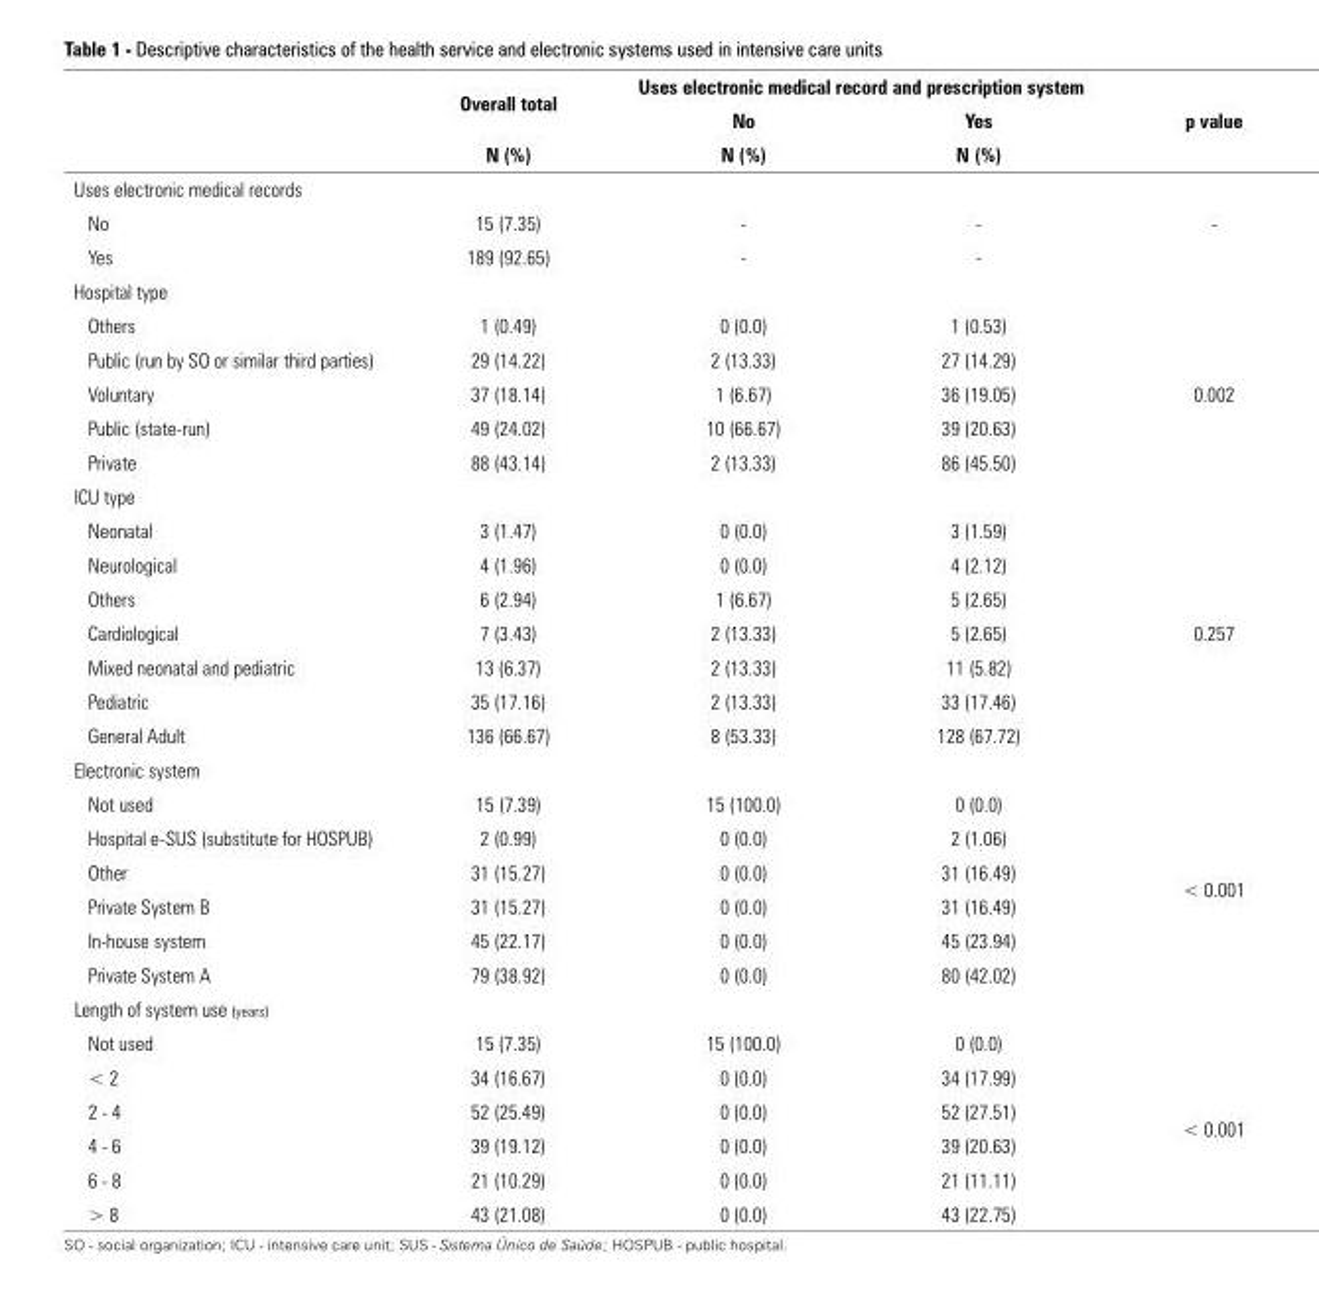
<table><thead><tr><td rowspan="3"></td><td rowspan="3">Overall total N (%)</td><td colspan="2">Uses electronic medical record and prescription system</td><td rowspan="3">p value</td></tr><tr><td rowspan="2">No N (%)</td><td rowspan="2">Yes N (%)</td></tr><tr></tr></thead><tbody><tr><td colspan="4">Uses electronic medical records</td><td rowspan="3">-</td></tr><tr><td>No</td><td>15 (7.35)</td><td>-</td><td>-</td></tr><tr><td>Yes</td><td>189 (92.65)</td><td>-</td><td>-</td></tr><tr><td colspan="5">Hospital type</td></tr><tr><td>Others</td><td>1 (0.49)</td><td>0 (0.0)</td><td>1 (0.53)</td><td rowspan="5">0.002</td></tr><tr><td>Public (run by SO or similar third parties)</td><td>29 (14.22)</td><td>2 (13.33)</td><td>27 (14.29)</td></tr><tr><td>Voluntary</td><td>37 (18.14)</td><td>1 (6.67)</td><td>36 (19.05)</td></tr><tr><td>Public (state-run)</td><td>49 (24.02)</td><td>10 (66.67)</td><td>39 (20.63)</td></tr><tr><td>Private</td><td>88 (43.14)</td><td>2 (13.33)</td><td>86 (45.50)</td></tr><tr><td colspan="5">ICU type</td></tr><tr><td>Neonatal</td><td>3 (1.47)</td><td>0 (0.0)</td><td>3 (1.59)</td><td rowspan="7">0.257</td></tr><tr><td>Neurological</td><td>4 (1.96)</td><td>0 (0.0)</td><td>4 (2.12)</td></tr><tr><td>Others</td><td>6 (2.94)</td><td>1 (6.67)</td><td>5 (2.65)</td></tr><tr><td>Cardiological</td><td>7 (3.43)</td><td>2 (13.33)</td><td>5 (2.65)</td></tr><tr><td>Mixed neonatal and pediatric</td><td>13 (6.37)</td><td>2 (13.33)</td><td>11 (5.82)</td></tr><tr><td>Pediatric</td><td>35 (17.16)</td><td>2 (13.33)</td><td>33 (17.46)</td></tr><tr><td>General Adult</td><td>136 (66.67)</td><td>8 (53.33)</td><td>128 (67.72)</td></tr><tr><td colspan="5">Electronic system</td></tr><tr><td>Not used</td><td>15 (7.39)</td><td>15 (100.0)</td><td>0 (0.0)</td><td rowspan="6">&lt; 0.001</td></tr><tr><td>Hospital e-SUS (substitute for HOSPUB)</td><td>2 (0.99)</td><td>0 (0.0)</td><td>2 (1.06)</td></tr><tr><td>Other</td><td>31 (15.27)</td><td>0 (0.0)</td><td>31 (16.49)</td></tr><tr><td>Private System B</td><td>31 (15.27)</td><td>0 (0.0)</td><td>31 (16.49)</td></tr><tr><td>In-house system</td><td>45 (22.17)</td><td>0 (0.0)</td><td>45 (23.94)</td></tr><tr><td>Private System A</td><td>79 (38.92)</td><td>0 (0.0)</td><td>80 (42.02)</td></tr><tr><td colspan="5">Length of system use (years)</td></tr><tr><td>Not used</td><td>15 (7.35)</td><td>15 (100.0)</td><td>0 (0.0)</td><td rowspan="6">&lt; 0.001</td></tr><tr><td>&lt; 2</td><td>34 (16.67)</td><td>0 (0.0)</td><td>34 (17.99)</td></tr><tr><td>2 - 4</td><td>52 (25.49)</td><td>0 (0.0)</td><td>52 (27.51)</td></tr><tr><td>4 - 6</td><td>39 (19.12)</td><td>0 (0.0)</td><td>39 (20.63)</td></tr><tr><td>6 - 8</td><td>21 (10.29)</td><td>0 (0.0)</td><td>21 (11.11)</td></tr><tr><td>&gt; 8</td><td>43 (21.08)</td><td>0 (0.0)</td><td>43 (22.75)</td></tr></tbody></table>